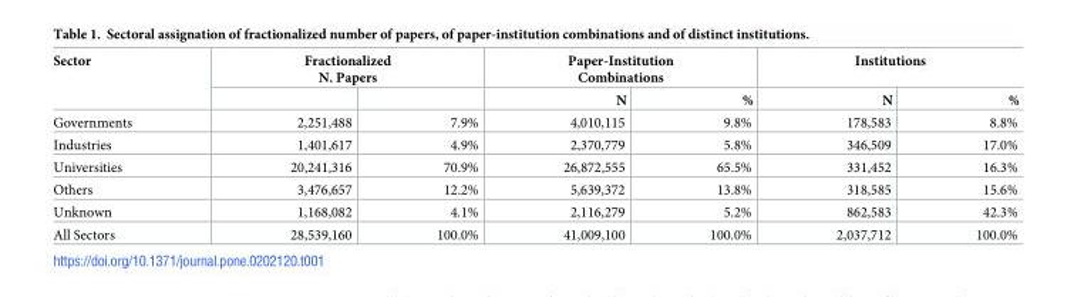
<table><thead><tr><td rowspan="2">Sector</td><td colspan="2">Fractionalized N. Papers</td><td colspan="2">Paper-Institution Combinations</td><td colspan="2">Institutions</td></tr><tr><td></td><td></td><td>N</td><td>%</td><td>N</td><td>%</td></tr></thead><tbody><tr><td>Governments</td><td>2,251,488</td><td>7.9%</td><td>4,010,115</td><td>9.8%</td><td>178,583</td><td>8.8%</td></tr><tr><td>Industries</td><td>1,401,617</td><td>4.9%</td><td>2,370,779</td><td>5.8%</td><td>346,509</td><td>17.0%</td></tr><tr><td>Universities</td><td>20,241,316</td><td>70.9%</td><td>26,872,555</td><td>65.5%</td><td>331,452</td><td>16.3%</td></tr><tr><td>Others</td><td>3,476,657</td><td>12.2%</td><td>5,639,372</td><td>13.8%</td><td>318,585</td><td>15.6%</td></tr><tr><td>Unknown</td><td>1,168,082</td><td>4.1%</td><td>2,116,279</td><td>5.2%</td><td>862,583</td><td>42.3%</td></tr><tr><td>All Sectors</td><td>28,539,160</td><td>100.0%</td><td>41,009,100</td><td>100.0%</td><td>2,037,712</td><td>100.0%</td></tr></tbody></table>